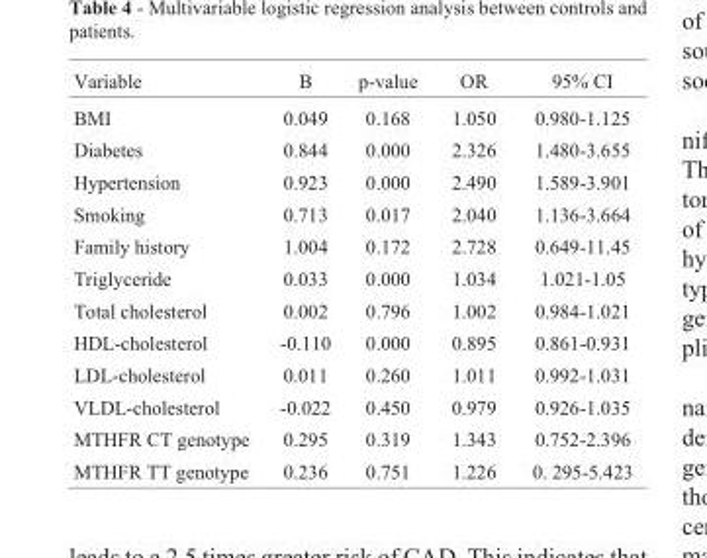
<table><thead><tr><td>Variable</td><td>B</td><td>p-value</td><td>OR</td><td>95% CI</td></tr></thead><tbody><tr><td>BMI</td><td>0.049</td><td>0.168</td><td>1.050</td><td>0.980-1.125</td></tr><tr><td>Diabetes</td><td>0.844</td><td>0.000</td><td>2.326</td><td>1.480-3.655</td></tr><tr><td>Hypertension</td><td>0.923</td><td>0.000</td><td>2.490</td><td>1.589-3.901</td></tr><tr><td>Smoking</td><td>0.713</td><td>0.017</td><td>2.040</td><td>1.136-3.664</td></tr><tr><td>Family history</td><td>1.004</td><td>0.172</td><td>2.728</td><td>0.649-11.45</td></tr><tr><td>Triglyceride</td><td>0.033</td><td>0.000</td><td>1.034</td><td>1.021-1.05</td></tr><tr><td>Total cholesterol</td><td>0.002</td><td>0.796</td><td>1.002</td><td>0.984-1.021</td></tr><tr><td>HDL-cholesterol</td><td>-0.110</td><td>0.000</td><td>0.895</td><td>0.861-0.931</td></tr><tr><td>LDL-cholesterol</td><td>0.011</td><td>0.260</td><td>1.011</td><td>0.992-1.031</td></tr><tr><td>VLDL-cholesterol</td><td>-0.022</td><td>0.450</td><td>0.979</td><td>0.926-1.035</td></tr><tr><td>MTHFR CT genotype</td><td>0.295</td><td>0.319</td><td>1.343</td><td>0.752-2.396</td></tr><tr><td>MTHFR TT genotype</td><td>0.236</td><td>0.751</td><td>1.226</td><td>0. 295-5.423</td></tr></tbody></table>